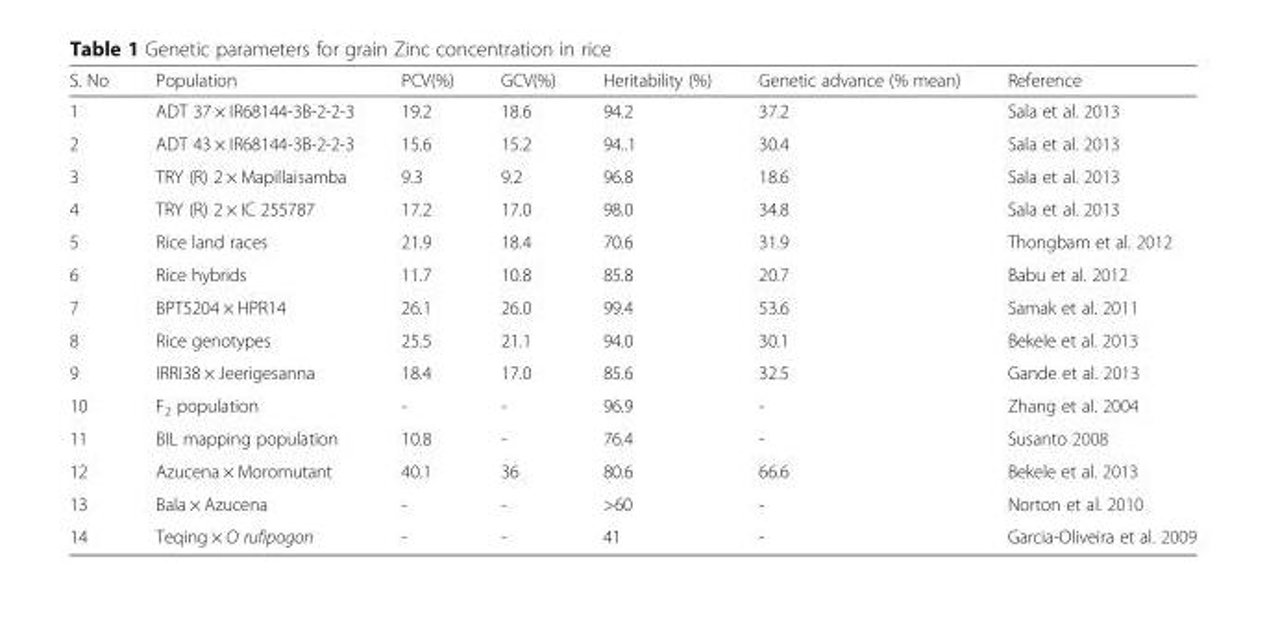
<table><thead><tr><td>S. No</td><td>Population</td><td>PCV(%)</td><td>GCV(%)</td><td>Heritability (%)</td><td>Genetic advance (% mean)</td><td>Reference</td></tr></thead><tbody><tr><td>1</td><td>ADT 37 × IR68144-3B-2-2-3</td><td>19.2</td><td>18.6</td><td>94.2</td><td>37.2</td><td>Sala et al. 2013</td></tr><tr><td>2</td><td>ADT 43 × IR68144-3B-2-2-3</td><td>15.6</td><td>15.2</td><td>94..1</td><td>30.4</td><td>Sala et al. 2013</td></tr><tr><td>3</td><td>TRY (R) 2 × Mapillaisamba</td><td>9.3</td><td>9.2</td><td>96.8</td><td>18.6</td><td>Sala et al. 2013</td></tr><tr><td>4</td><td>TRY (R) 2 × IC 255787</td><td>17.2</td><td>17.0</td><td>98.0</td><td>34.8</td><td>Sala et al. 2013</td></tr><tr><td>5</td><td>Rice land races</td><td>21.9</td><td>18.4</td><td>70.6</td><td>31.9</td><td>Thongbam et al. 2012</td></tr><tr><td>6</td><td>Rice hybrids</td><td>11.7</td><td>10.8</td><td>85.8</td><td>20.7</td><td>Babu et al. 2012</td></tr><tr><td>7</td><td>BPT5204 × HPR14</td><td>26.1</td><td>26.0</td><td>99.4</td><td>53.6</td><td>Samak et al. 2011</td></tr><tr><td>8</td><td>Rice genotypes</td><td>25.5</td><td>21.1</td><td>94.0</td><td>30.1</td><td>Bekele et al. 2013</td></tr><tr><td>9</td><td>IRRI38 × Jeerigesanna</td><td>18.4</td><td>17.0</td><td>85.6</td><td>32.5</td><td>Gande et al. 2013</td></tr><tr><td>10</td><td>F<sub>2</sub> population</td><td>-</td><td>-</td><td>96.9</td><td>-</td><td>Zhang et al. 2004</td></tr><tr><td>11</td><td>BIL mapping population</td><td>10.8</td><td>-</td><td>76.4</td><td>-</td><td>Susanto 2008</td></tr><tr><td>12</td><td>Azucena × Moromutant</td><td>40.1</td><td>36</td><td>80.6</td><td>66.6</td><td>Bekele et al. 2013</td></tr><tr><td>13</td><td>Bala × Azucena</td><td>-</td><td>-</td><td>&gt;60</td><td>-</td><td>Norton et al. 2010</td></tr><tr><td>14</td><td>Teqing × O rufipogon</td><td>-</td><td>-</td><td>41</td><td>-</td><td>Garcia-Oliveira et al. 2009</td></tr></tbody></table>